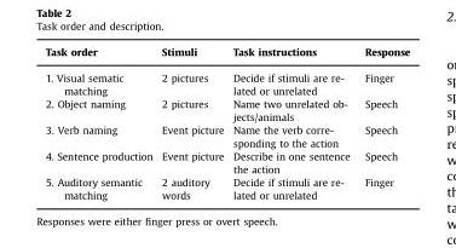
<table><thead><tr><td>Task order</td><td>Stimuli</td><td>Task instructions</td><td>Response</td></tr></thead><tbody><tr><td>1. Visual sematic matching</td><td>2 pictures</td><td>Decide if stimuli are re- lated or unrelated</td><td>Finger</td></tr><tr><td>2. Object naming</td><td>2 pictures</td><td>Name two unrelated ob- jects/animals</td><td>Speech</td></tr><tr><td>3. Verb naming</td><td>Event picture</td><td>Name the verb corre- sponding to the action</td><td>Speech</td></tr><tr><td>4. Sentence production</td><td>Event picture</td><td>Describe in one sentence the action</td><td>Speech</td></tr><tr><td>5. Auditory semantic matching</td><td>2 auditory words</td><td>Decide if stimuli are re- lated or unrelated</td><td>Finger</td></tr></tbody></table>